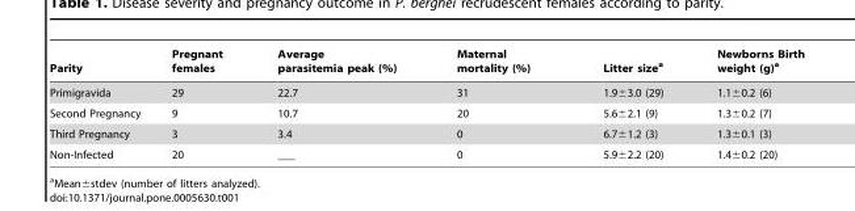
<table><thead><tr><td>Parity</td><td>Pregnant females</td><td>Average parasitemia peak (%)</td><td>Maternal mortality (%)</td><td>Litter size<sup>a</sup></td><td>Newborns Birth weight (g)<sup>a</sup></td></tr></thead><tbody><tr><td>Primigravida</td><td>29</td><td>22.7</td><td>31</td><td>1.9±3.0 (29)</td><td>1.1±0.2 (6)</td></tr><tr><td>Second Pregnancy</td><td>9</td><td>10.7</td><td>20</td><td>5.6±2.1 (9)</td><td>1.3±0.2 (7)</td></tr><tr><td>Third Pregnancy</td><td>3</td><td>3.4</td><td>0</td><td>6.7±1.2 (3)</td><td>1.3±0.1 (3)</td></tr><tr><td>Non-Infected</td><td>20</td><td>___</td><td>0</td><td>5.9±2.2 (20)</td><td>1.4±0.2 (20)</td></tr></tbody></table>